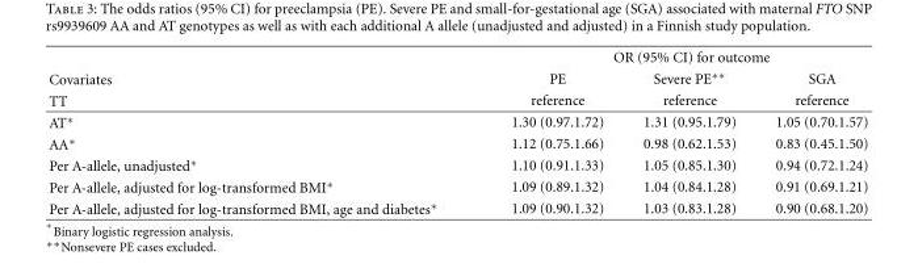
<table><thead><tr><td rowspan="3">Covariates TT</td><td colspan="3">OR (95% CI) for outcome</td></tr><tr><td rowspan="2">PE reference</td><td rowspan="2">Severe PE∗∗ reference</td><td rowspan="2">SGA reference</td></tr><tr></tr></thead><tbody><tr><td>AT∗</td><td>1.30 (0.97.1.72)</td><td>1.31 (0.95.1.79)</td><td>1.05 (0.70.1.57)</td></tr><tr><td>AA∗</td><td>1.12 (0.75.1.66)</td><td>0.98 (0.62.1.53)</td><td>0.83 (0.45.1.50)</td></tr><tr><td>Per A-allele, unadjusted∗</td><td>1.10 (0.91.1.33)</td><td>1.05 (0.85.1.30)</td><td>0.94 (0.72.1.24)</td></tr><tr><td>Per A-allele, adjusted for log-transformed BMI∗</td><td>1.09 (0.89.1.32)</td><td>1.04 (0.84.1.28)</td><td>0.91 (0.69.1.21)</td></tr><tr><td>Per A-allele, adjusted for log-transformed BMI, age and diabetes∗</td><td>1.09 (0.90.1.32)</td><td>1.03 (0.83.1.28)</td><td>0.90 (0.68.1.20)</td></tr></tbody></table>